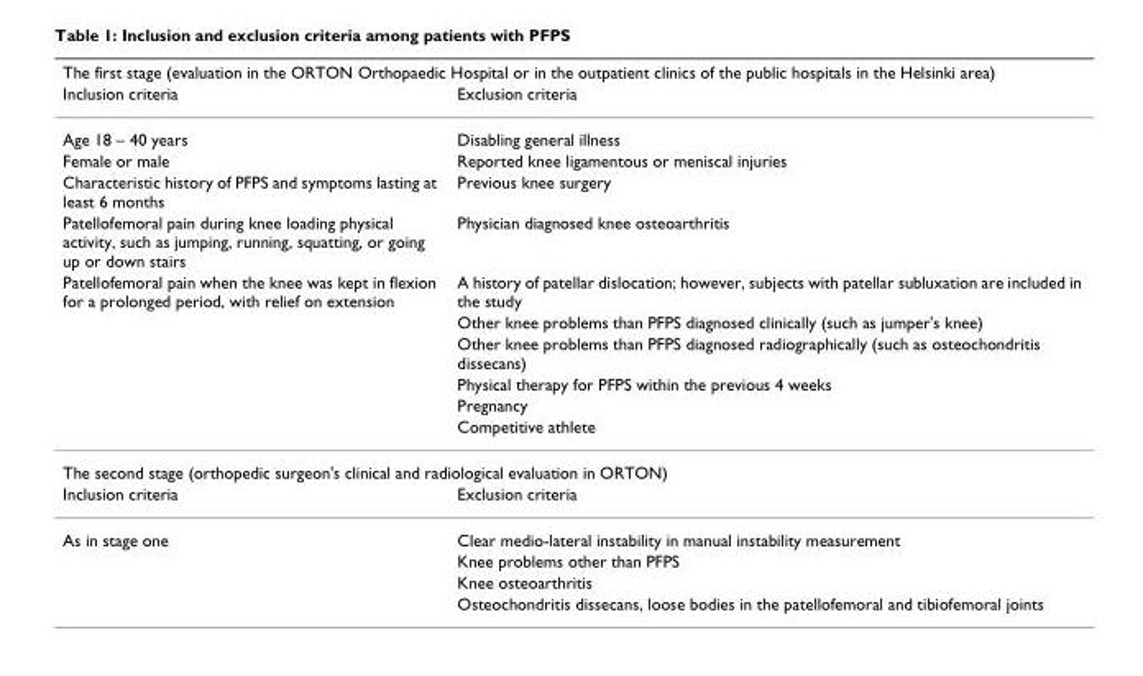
<table><thead><tr><td colspan="2">The first stage (evaluation in the ORTON Orthopaedic Hospital or in the outpatient clinics of the public hospitals in the Helsinki area)</td></tr><tr><td>Inclusion criteria</td><td>Exclusion criteria</td></tr></thead><tbody><tr><td>Age 18 – 40 years</td><td>Disabling general illness</td></tr><tr><td>Female or male</td><td>Reported knee ligamentous or meniscal injuries</td></tr><tr><td>Characteristic history of PFPS and symptoms lasting at least 6 months</td><td>Previous knee surgery</td></tr><tr><td>Patellofemoral pain during knee loading physical activity, such as jumping, running, squatting, or going up or down stairs</td><td>Physician diagnosed knee osteoarthritis</td></tr><tr><td rowspan="6">Patellofemoral pain when the knee was kept in flexion for a prolonged period, with relief on extension</td><td>A history of patellar dislocation; however, subjects with patellar subluxation are included in the study</td></tr><tr><td>Other knee problems than PFPS diagnosed clinically (such as jumper&#x27;s knee)</td></tr><tr><td>Other knee problems than PFPS diagnosed radiographically (such as osteochondritis dissecans)</td></tr><tr><td>Physical therapy for PFPS within the previous 4 weeks</td></tr><tr><td>Pregnancy</td></tr><tr><td>Competitive athlete</td></tr><tr><td colspan="2">The second stage (orthopedic surgeon&#x27;s clinical and radiological evaluation in ORTON)</td></tr><tr><td>Inclusion criteria</td><td>Exclusion criteria</td></tr><tr><td rowspan="4">As in stage one</td><td>Clear medio-lateral instability in manual instability measurement</td></tr><tr><td>Knee problems other than PFPS</td></tr><tr><td>Knee osteoarthritis</td></tr><tr><td>Osteochondritis dissecans, loose bodies in the patellofemoral and tibiofemoral joints</td></tr></tbody></table>